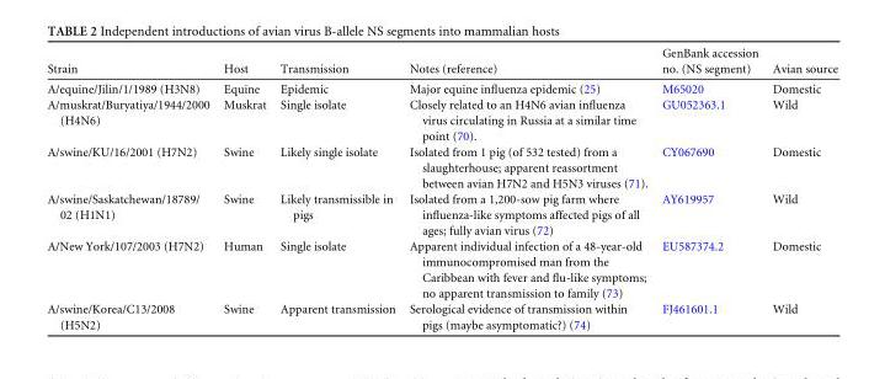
<table><thead><tr><td>Strain</td><td>Host</td><td>Transmission</td><td>Notes (reference)</td><td>GenBank accession no. (NS segment)</td><td>Avian source</td></tr></thead><tbody><tr><td>A/equine/Jilin/1/1989 (H3N8)</td><td>Equine</td><td>Epidemic</td><td>Major equine influenza epidemic (25)</td><td>M65020</td><td>Domestic</td></tr><tr><td>A/muskrat/Buryatiya/1944/2000 (H4N6)</td><td>Muskrat</td><td>Single isolate</td><td>Closely related to an H4N6 avian influenza virus circulating in Russia at a similar time point (70).</td><td>GU052363.1</td><td>Wild</td></tr><tr><td>A/swine/KU/16/2001 (H7N2)</td><td>Swine</td><td>Likely single isolate</td><td>Isolated from 1 pig (of 532 tested) from a slaughterhouse; apparent reassortment between avian H7N2 and H5N3 viruses (71).</td><td>CY067690</td><td>Domestic</td></tr><tr><td>A/swine/Saskatchewan/18789/ 02 (H1N1)</td><td>Swine</td><td>Likely transmissible in pigs</td><td>Isolated from a 1,200-sow pig farm where influenza-like symptoms affected pigs of all ages; fully avian virus (72)</td><td>AY619957</td><td>Wild</td></tr><tr><td>A/New York/107/2003 (H7N2)</td><td>Human</td><td>Single isolate</td><td>Apparent individual infection of a 48-year-old immunocompromised man from the Caribbean with fever and flu-like symptoms; no apparent transmission to family (73)</td><td>EU587374.2</td><td>Domestic</td></tr><tr><td>A/swine/Korea/C13/2008 (H5N2)</td><td>Swine</td><td>Apparent transmission</td><td>Serological evidence of transmission within pigs (maybe asymptomatic?) (74)</td><td>FJ461601.1</td><td>Wild</td></tr></tbody></table>